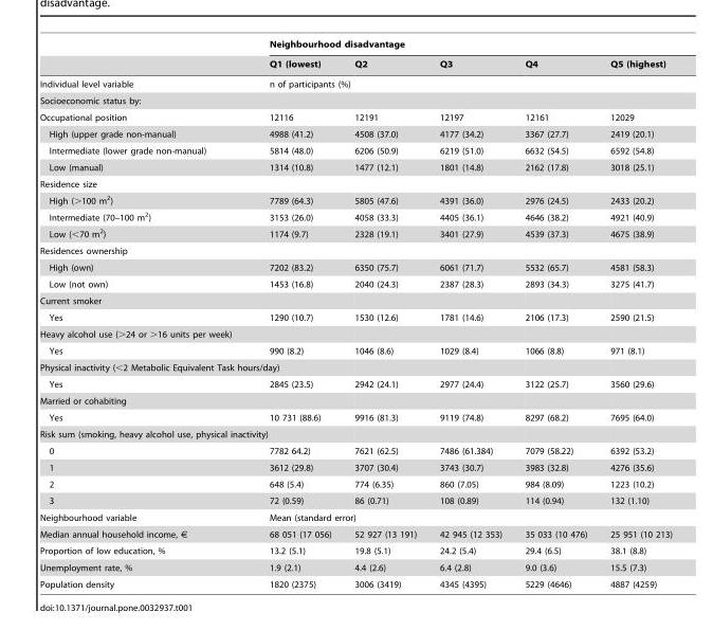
<table><thead><tr><td rowspan="2"></td><td colspan="5">Neighbourhood disadvantage</td></tr><tr><td>Q1 (lowest)</td><td>Q2</td><td>Q3</td><td>Q4</td><td>Q5 (highest)</td></tr></thead><tbody><tr><td>Individual level variable</td><td colspan="5">n of participants (%)</td></tr><tr><td colspan="6">Socioeconomic status by:</td></tr><tr><td>Occupational position</td><td>12116</td><td>12191</td><td>12197</td><td>12161</td><td>12029</td></tr><tr><td>High (upper grade non-manual)</td><td>4988 (41.2)</td><td>4508 (37.0)</td><td>4177 (34.2)</td><td>3367 (27.7)</td><td>2419 (20.1)</td></tr><tr><td>Intermediate (lower grade non-manual)</td><td>5814 (48.0)</td><td>6206 (50.9)</td><td>6219 (51.0)</td><td>6632 (54.5)</td><td>6592 (54.8)</td></tr><tr><td>Low (manual)</td><td>1314 (10.8)</td><td>1477 (12.1)</td><td>1801 (14.8)</td><td>2162 (17.8)</td><td>3018 (25.1)</td></tr><tr><td colspan="6">Residence size</td></tr><tr><td>High (&gt;100 m<sup>2</sup>)</td><td>7789 (64.3)</td><td>5805 (47.6)</td><td>4391 (36.0)</td><td>2976 (24.5)</td><td>2433 (20.2)</td></tr><tr><td>Intermediate (70–100 m<sup>2</sup>)</td><td>3153 (26.0)</td><td>4058 (33.3)</td><td>4405 (36.1)</td><td>4646 (38.2)</td><td>4921 (40.9)</td></tr><tr><td>Low (&lt;70 m<sup>2</sup>)</td><td>1174 (9.7)</td><td>2328 (19.1)</td><td>3401 (27.9)</td><td>4539 (37.3)</td><td>4675 (38.9)</td></tr><tr><td colspan="6">Residences ownership</td></tr><tr><td>High (own)</td><td>7202 (83.2)</td><td>6350 (75.7)</td><td>6061 (71.7)</td><td>5532 (65.7)</td><td>4581 (58.3)</td></tr><tr><td>Low (not own)</td><td>1453 (16.8)</td><td>2040 (24.3)</td><td>2387 (28.3)</td><td>2893 (34.3)</td><td>3275 (41.7)</td></tr><tr><td colspan="6">Current smoker</td></tr><tr><td>Yes</td><td>1290 (10.7)</td><td>1530 (12.6)</td><td>1781 (14.6)</td><td>2106 (17.3)</td><td>2590 (21.5)</td></tr><tr><td colspan="6">Heavy alcohol use (&gt;24 or &gt;16 units per week)</td></tr><tr><td>Yes</td><td>990 (8.2)</td><td>1046 (8.6)</td><td>1029 (8.4)</td><td>1066 (8.8)</td><td>971 (8.1)</td></tr><tr><td colspan="6">Physical inactivity (&lt;2 Metabolic Equivalent Task hours/day)</td></tr><tr><td>Yes</td><td>2845 (23.5)</td><td>2942 (24.1)</td><td>2977 (24.4)</td><td>3122 (25.7)</td><td>3560 (29.6)</td></tr><tr><td colspan="6">Married or cohabiting</td></tr><tr><td>Yes</td><td>10 731 (88.6)</td><td>9916 (81.3)</td><td>9119 (74.8)</td><td>8297 (68.2)</td><td>7695 (64.0)</td></tr><tr><td colspan="6">Risk sum (smoking, heavy alcohol use, physical inactivity)</td></tr><tr><td>0</td><td>7782 64.2)</td><td>7621 (62.5)</td><td>7486 (61.384)</td><td>7079 (58.22)</td><td>6392 (53.2)</td></tr><tr><td>1</td><td>3612 (29.8)</td><td>3707 (30.4)</td><td>3743 (30.7)</td><td>3983 (32.8)</td><td>4276 (35.6)</td></tr><tr><td>2</td><td>648 (5.4)</td><td>774 (6.35)</td><td>860 (7.05)</td><td>984 (8.09)</td><td>1223 (10.2)</td></tr><tr><td>3</td><td>72 (0.59)</td><td>86 (0.71)</td><td>108 (0.89)</td><td>114 (0.94)</td><td>132 (1.10)</td></tr><tr><td>Neighbourhood variable</td><td colspan="5">Mean (standard error)</td></tr><tr><td>Median annual household income, €</td><td>68 051 (17 056)</td><td>52 927 (13 191)</td><td>42 945 (12 353)</td><td>35 033 (10 476)</td><td>25 951 (10 213)</td></tr><tr><td>Proportion of low education, %</td><td>13.2 (5.1)</td><td>19.8 (5.1)</td><td>24.2 (5.4)</td><td>29.4 (6.5)</td><td>38.1 (8.8)</td></tr><tr><td>Unemployment rate, %</td><td>1.9 (2.1)</td><td>4.4 (2.6)</td><td>6.4 (2.8)</td><td>9.0 (3.6)</td><td>15.5 (7.3)</td></tr><tr><td>Population density</td><td>1820 (2375)</td><td>3006 (3419)</td><td>4345 (4395)</td><td>5229 (4646)</td><td>4887 (4259)</td></tr></tbody></table>